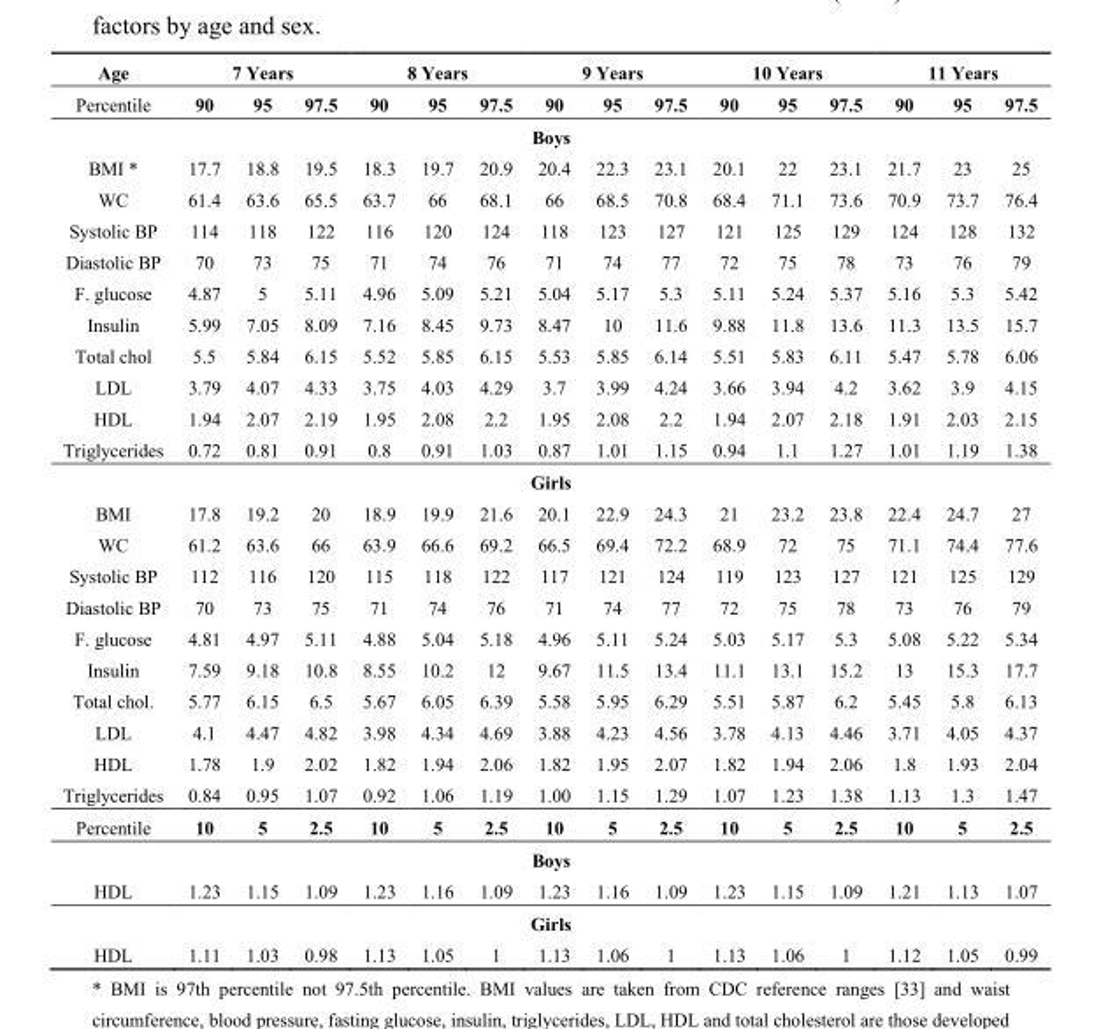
<table><thead><tr><td rowspan="2">Age Percentile</td><td colspan="3">7 Years</td><td colspan="3">8 Years</td><td colspan="3">9 Years</td><td colspan="3">10 Years</td><td colspan="3">11 Years</td></tr><tr><td>90</td><td>95</td><td>97.5</td><td>90</td><td>95</td><td>97.5</td><td>90</td><td>95</td><td>97.5</td><td>90</td><td>95</td><td>97.5</td><td>90</td><td>95</td><td>97.5</td></tr></thead><tbody><tr><td colspan="16">Boys</td></tr><tr><td>BMI *</td><td>17.7</td><td>18.8</td><td>19.5</td><td>18.3</td><td>19.7</td><td>20.9</td><td>20.4</td><td>22.3</td><td>23.1</td><td>20.1</td><td>22</td><td>23.1</td><td>21.7</td><td>23</td><td>25</td></tr><tr><td>WC</td><td>61.4</td><td>63.6</td><td>65.5</td><td>63.7</td><td>66</td><td>68.1</td><td>66</td><td>68.5</td><td>70.8</td><td>68.4</td><td>71.1</td><td>73.6</td><td>70.9</td><td>73.7</td><td>76.4</td></tr><tr><td>Systolic BP</td><td>114</td><td>118</td><td>122</td><td>116</td><td>120</td><td>124</td><td>118</td><td>123</td><td>127</td><td>121</td><td>125</td><td>129</td><td>124</td><td>128</td><td>132</td></tr><tr><td>Diastolic BP</td><td>70</td><td>73</td><td>75</td><td>71</td><td>74</td><td>76</td><td>71</td><td>74</td><td>77</td><td>72</td><td>75</td><td>78</td><td>73</td><td>76</td><td>79</td></tr><tr><td>F. glucose</td><td>4.87</td><td>5</td><td>5.11</td><td>4.96</td><td>5.09</td><td>5.21</td><td>5.04</td><td>5.17</td><td>5.3</td><td>5.11</td><td>5.24</td><td>5.37</td><td>5.16</td><td>5.3</td><td>5.42</td></tr><tr><td>Insulin</td><td>5.99</td><td>7.05</td><td>8.09</td><td>7.16</td><td>8.45</td><td>9.73</td><td>8.47</td><td>10</td><td>11.6</td><td>9.88</td><td>11.8</td><td>13.6</td><td>11.3</td><td>13.5</td><td>15.7</td></tr><tr><td>Total chol</td><td>5.5</td><td>5.84</td><td>6.15</td><td>5.52</td><td>5.85</td><td>6.15</td><td>5.53</td><td>5.85</td><td>6.14</td><td>5.51</td><td>5.83</td><td>6.11</td><td>5.47</td><td>5.78</td><td>6.06</td></tr><tr><td>LDL</td><td>3.79</td><td>4.07</td><td>4.33</td><td>3.75</td><td>4.03</td><td>4.29</td><td>3.7</td><td>3.99</td><td>4.24</td><td>3.66</td><td>3.94</td><td>4.2</td><td>3.62</td><td>3.9</td><td>4.15</td></tr><tr><td>HDL</td><td>1.94</td><td>2.07</td><td>2.19</td><td>1.95</td><td>2.08</td><td>2.2</td><td>1.95</td><td>2.08</td><td>2.2</td><td>1.94</td><td>2.07</td><td>2.18</td><td>1.91</td><td>2.03</td><td>2.15</td></tr><tr><td>Triglycerides</td><td>0.72</td><td>0.81</td><td>0.91</td><td>0.8</td><td>0.91</td><td>1.03</td><td>0.87</td><td>1.01</td><td>1.15</td><td>0.94</td><td>1.1</td><td>1.27</td><td>1.01</td><td>1.19</td><td>1.38</td></tr><tr><td colspan="16">Girls</td></tr><tr><td>BMI</td><td>17.8</td><td>19.2</td><td>20</td><td>18.9</td><td>19.9</td><td>21.6</td><td>20.1</td><td>22.9</td><td>24.3</td><td>21</td><td>23.2</td><td>23.8</td><td>22.4</td><td>24.7</td><td>27</td></tr><tr><td>WC</td><td>61.2</td><td>63.6</td><td>66</td><td>63.9</td><td>66.6</td><td>69.2</td><td>66.5</td><td>69.4</td><td>72.2</td><td>68.9</td><td>72</td><td>75</td><td>71.1</td><td>74.4</td><td>77.6</td></tr><tr><td>Systolic BP</td><td>112</td><td>116</td><td>120</td><td>115</td><td>118</td><td>122</td><td>117</td><td>121</td><td>124</td><td>119</td><td>123</td><td>127</td><td>121</td><td>125</td><td>129</td></tr><tr><td>Diastolic BP</td><td>70</td><td>73</td><td>75</td><td>71</td><td>74</td><td>76</td><td>71</td><td>74</td><td>77</td><td>72</td><td>75</td><td>78</td><td>73</td><td>76</td><td>79</td></tr><tr><td>F. glucose</td><td>4.81</td><td>4.97</td><td>5.11</td><td>4.88</td><td>5.04</td><td>5.18</td><td>4.96</td><td>5.11</td><td>5.24</td><td>5.03</td><td>5.17</td><td>5.3</td><td>5.08</td><td>5.22</td><td>5.34</td></tr><tr><td>Insulin</td><td>7.59</td><td>9.18</td><td>10.8</td><td>8.55</td><td>10.2</td><td>12</td><td>9.67</td><td>11.5</td><td>13.4</td><td>11.1</td><td>13.1</td><td>15.2</td><td>13</td><td>15.3</td><td>17.7</td></tr><tr><td>Total chol.</td><td>5.77</td><td>6.15</td><td>6.5</td><td>5.67</td><td>6.05</td><td>6.39</td><td>5.58</td><td>5.95</td><td>6.29</td><td>5.51</td><td>5.87</td><td>6.2</td><td>5.45</td><td>5.8</td><td>6.13</td></tr><tr><td>LDL</td><td>4.1</td><td>4.47</td><td>4.82</td><td>3.98</td><td>4.34</td><td>4.69</td><td>3.88</td><td>4.23</td><td>4.56</td><td>3.78</td><td>4.13</td><td>4.46</td><td>3.71</td><td>4.05</td><td>4.37</td></tr><tr><td>HDL</td><td>1.78</td><td>1.9</td><td>2.02</td><td>1.82</td><td>1.94</td><td>2.06</td><td>1.82</td><td>1.95</td><td>2.07</td><td>1.82</td><td>1.94</td><td>2.06</td><td>1.8</td><td>1.93</td><td>2.04</td></tr><tr><td>Triglycerides</td><td>0.84</td><td>0.95</td><td>1.07</td><td>0.92</td><td>1.06</td><td>1.19</td><td>1.00</td><td>1.15</td><td>1.29</td><td>1.07</td><td>1.23</td><td>1.38</td><td>1.13</td><td>1.3</td><td>1.47</td></tr><tr><td>Percentile</td><td>10</td><td>5</td><td>2.5</td><td>10</td><td>5</td><td>2.5</td><td>10</td><td>5</td><td>2.5</td><td>10</td><td>5</td><td>2.5</td><td>10</td><td>5</td><td>2.5</td></tr><tr><td colspan="16">Boys</td></tr><tr><td>HDL</td><td>1.23</td><td>1.15</td><td>1.09</td><td>1.23</td><td>1.16</td><td>1.09</td><td>1.23</td><td>1.16</td><td>1.09</td><td>1.23</td><td>1.15</td><td>1.09</td><td>1.21</td><td>1.13</td><td>1.07</td></tr><tr><td colspan="16">Girls</td></tr><tr><td>HDL</td><td>1.11</td><td>1.03</td><td>0.98</td><td>1.13</td><td>1.05</td><td>1</td><td>1.13</td><td>1.06</td><td>1</td><td>1.13</td><td>1.06</td><td>1</td><td>1.12</td><td>1.05</td><td>0.99</td></tr></tbody></table>